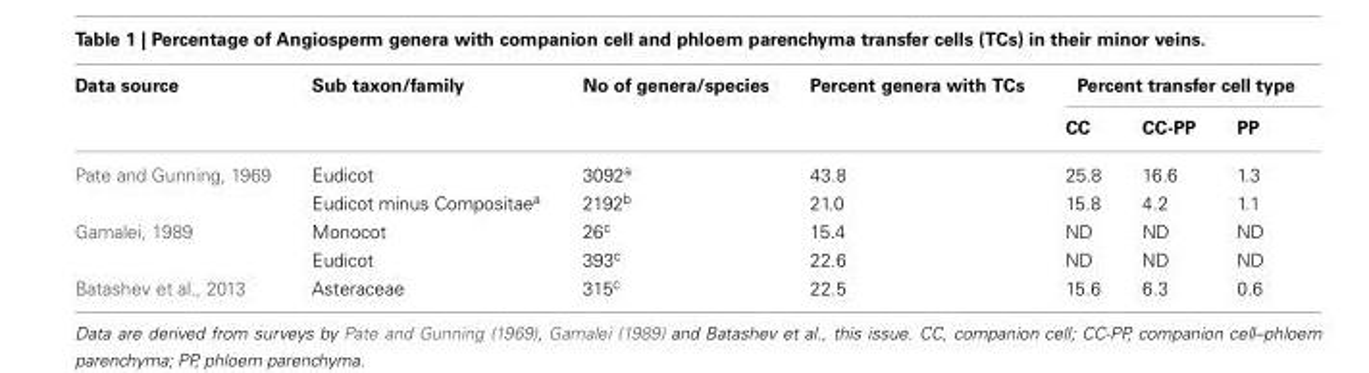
<table><thead><tr><td rowspan="2">Data source</td><td rowspan="2">Sub taxon/family</td><td rowspan="2">No of genera/species</td><td rowspan="2">Percent genera with TCs</td><td colspan="3">Percent transfer cell type</td></tr><tr><td>CC</td><td>CC-PP</td><td>PP</td></tr></thead><tbody><tr><td rowspan="2">Pate and Gunning, 1969</td><td>Eudicot</td><td>3092<sup>a</sup></td><td>43.8</td><td>25.8</td><td>16.6</td><td>1.3</td></tr><tr><td>Eudicot minus Compositae<sup>a</sup></td><td>2192<sup>b</sup></td><td>21.0</td><td>15.8</td><td>4.2</td><td>1.1</td></tr><tr><td rowspan="2">Gamalei, 1989</td><td>Monocot</td><td>26<sup>c</sup></td><td>15.4</td><td>ND</td><td>ND</td><td>ND</td></tr><tr><td>Eudicot</td><td>393<sup>c</sup></td><td>22.6</td><td>ND</td><td>ND</td><td>ND</td></tr><tr><td>Batashev et al., 2013</td><td>Asteraceae</td><td>315<sup>c</sup></td><td>22.5</td><td>15.6</td><td>6.3</td><td>0.6</td></tr></tbody></table>